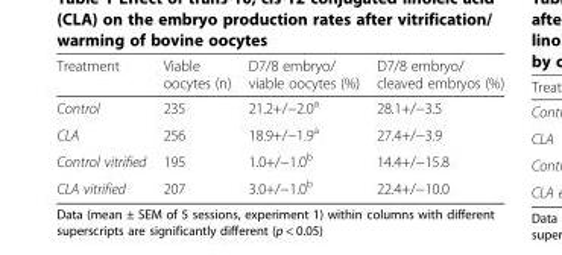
<table><thead><tr><td>Treatment</td><td>Viable oocytes (n)</td><td>D7/8 embryo/ viable oocytes (%)</td><td>D7/8 embryo/ cleaved embryos (%)</td></tr></thead><tbody><tr><td>Control</td><td>235</td><td>21.2+/−2.0<sup>a</sup></td><td>28.1+/−3.5</td></tr><tr><td>CLA</td><td>256</td><td>18.9+/−1.9<sup>a</sup></td><td>27.4+/−3.9</td></tr><tr><td>Control vitrified</td><td>195</td><td>1.0+/−1.0<sup>b</sup></td><td>14.4+/−15.8</td></tr><tr><td>CLA vitrified</td><td>207</td><td>3.0+/−1.0<sup>b</sup></td><td>22.4+/−10.0</td></tr></tbody></table>